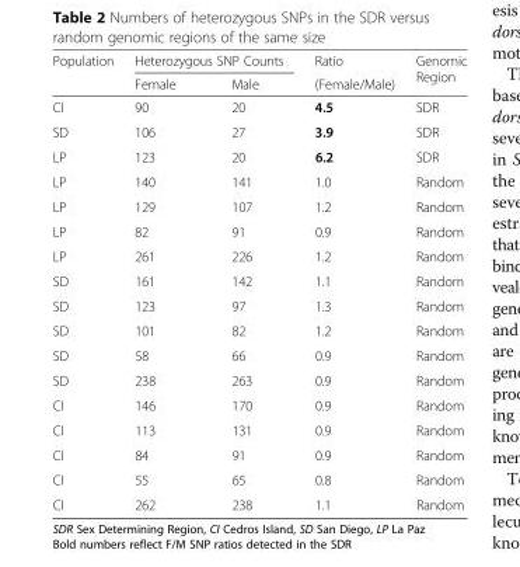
<table><thead><tr><td rowspan="2">Population</td><td colspan="2">Heterozygous SNP Counts</td><td rowspan="2">Ratio (Female/Male)</td><td rowspan="2">Genomic Region</td></tr><tr><td>Female</td><td>Male</td></tr></thead><tbody><tr><td>CI</td><td>90</td><td>20</td><td>4.5</td><td>SDR</td></tr><tr><td>SD</td><td>106</td><td>27</td><td>3.9</td><td>SDR</td></tr><tr><td>LP</td><td>123</td><td>20</td><td>6.2</td><td>SDR</td></tr><tr><td>LP</td><td>140</td><td>141</td><td>1.0</td><td>Random</td></tr><tr><td>LP</td><td>129</td><td>107</td><td>1.2</td><td>Random</td></tr><tr><td>LP</td><td>82</td><td>91</td><td>0.9</td><td>Random</td></tr><tr><td>LP</td><td>261</td><td>226</td><td>1.2</td><td>Random</td></tr><tr><td>SD</td><td>161</td><td>142</td><td>1.1</td><td>Random</td></tr><tr><td>SD</td><td>123</td><td>97</td><td>1.3</td><td>Random</td></tr><tr><td>SD</td><td>101</td><td>82</td><td>1.2</td><td>Random</td></tr><tr><td>SD</td><td>58</td><td>66</td><td>0.9</td><td>Random</td></tr><tr><td>SD</td><td>238</td><td>263</td><td>0.9</td><td>Random</td></tr><tr><td>CI</td><td>146</td><td>170</td><td>0.9</td><td>Random</td></tr><tr><td>CI</td><td>113</td><td>131</td><td>0.9</td><td>Random</td></tr><tr><td>CI</td><td>84</td><td>91</td><td>0.9</td><td>Random</td></tr><tr><td>CI</td><td>55</td><td>65</td><td>0.8</td><td>Random</td></tr><tr><td>CI</td><td>262</td><td>238</td><td>1.1</td><td>Random</td></tr></tbody></table>